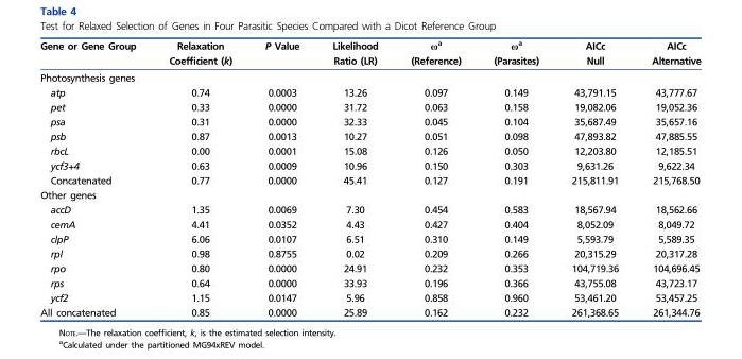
<table><thead><tr><td rowspan="2">Gene or Gene Group</td><td rowspan="2">Relaxation Coefficient (k)</td><td rowspan="2">P Value</td><td rowspan="2">Likelihood Ratio (LR)</td><td rowspan="2">ω<sup>a</sup> (Reference)</td><td rowspan="2">ω<sup>a</sup> (Parasites)</td><td rowspan="2">AICc Null</td><td rowspan="2">AICc Alternative</td></tr><tr></tr></thead><tbody><tr><td colspan="8">Photosynthesis genes</td></tr><tr><td>atp</td><td>0.74</td><td>0.0003</td><td>13.26</td><td>0.097</td><td>0.149</td><td>43,791.15</td><td>43,777.67</td></tr><tr><td>pet</td><td>0.33</td><td>0.0000</td><td>31.72</td><td>0.063</td><td>0.158</td><td>19,082.06</td><td>19,052.36</td></tr><tr><td>psa</td><td>0.31</td><td>0.0000</td><td>32.33</td><td>0.045</td><td>0.104</td><td>35,687.49</td><td>35,657.16</td></tr><tr><td>psb</td><td>0.87</td><td>0.0013</td><td>10.27</td><td>0.051</td><td>0.098</td><td>47,893.82</td><td>47,885.55</td></tr><tr><td>rbcL</td><td>0.00</td><td>0.0001</td><td>15.08</td><td>0.126</td><td>0.050</td><td>12,203.80</td><td>12,185.51</td></tr><tr><td>ycf3+4</td><td>0.63</td><td>0.0009</td><td>10.96</td><td>0.150</td><td>0.303</td><td>9,631.26</td><td>9,622.34</td></tr><tr><td>Concatenated</td><td>0.77</td><td>0.0000</td><td>45.41</td><td>0.127</td><td>0.191</td><td>215,811.91</td><td>215,768.50</td></tr><tr><td colspan="8">Other genes</td></tr><tr><td>accD</td><td>1.35</td><td>0.0069</td><td>7.30</td><td>0.454</td><td>0.583</td><td>18,567.94</td><td>18,562.66</td></tr><tr><td>cemA</td><td>4.41</td><td>0.0352</td><td>4.43</td><td>0.427</td><td>0.404</td><td>8,052.09</td><td>8,049.72</td></tr><tr><td>clpP</td><td>6.06</td><td>0.0107</td><td>6.51</td><td>0.310</td><td>0.149</td><td>5,593.79</td><td>5,589.35</td></tr><tr><td>rpl</td><td>0.98</td><td>0.8755</td><td>0.02</td><td>0.209</td><td>0.266</td><td>20,315.29</td><td>20,317.28</td></tr><tr><td>rpo</td><td>0.80</td><td>0.0000</td><td>24.91</td><td>0.232</td><td>0.353</td><td>104,719.36</td><td>104,696.45</td></tr><tr><td>rps</td><td>0.64</td><td>0.0000</td><td>33.93</td><td>0.196</td><td>0.366</td><td>43,755.08</td><td>43,723.17</td></tr><tr><td>ycf2</td><td>1.15</td><td>0.0147</td><td>5.96</td><td>0.858</td><td>0.960</td><td>53,461.20</td><td>53,457.25</td></tr><tr><td>All concatenated</td><td>0.85</td><td>0.0000</td><td>25.89</td><td>0.162</td><td>0.232</td><td>261,368.65</td><td>261,344.76</td></tr></tbody></table>